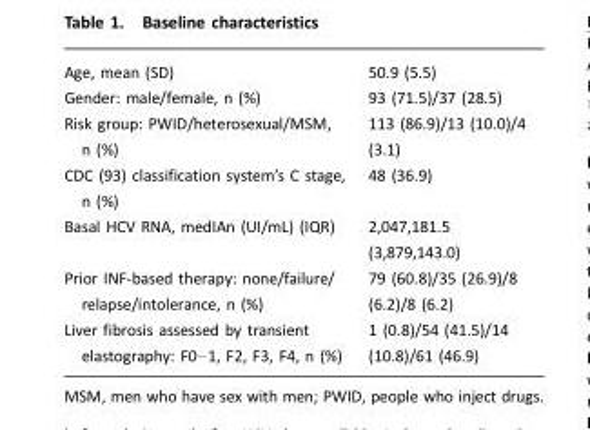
<table><tbody><tr><td>Age, mean (SD)</td><td>50.9 (5.5)</td></tr><tr><td>Gender: male/female, n (%)</td><td>93 (71.5)/37 (28.5)</td></tr><tr><td>Risk group: PWID/heterosexual/MSM, n (%)</td><td>113 (86.9)/13 (10.0)/4 (3.1)</td></tr><tr><td>CDC (93) classification system’s C stage, n (%)</td><td>48 (36.9)</td></tr><tr><td>Basal HCV RNA, medIAn (UI/mL) (IQR)</td><td>2,047,181.5 (3,879,143.0)</td></tr><tr><td>Prior INF-based therapy: none/failure/ relapse/intolerance, n (%)</td><td>79 (60.8)/35 (26.9)/8 (6.2)/8 (6.2)</td></tr><tr><td>Liver fibrosis assessed by transient elastography: F0–1, F2, F3, F4, n (%)</td><td>1 (0.8)/54 (41.5)/14 (10.8)/61 (46.9)</td></tr></tbody></table>